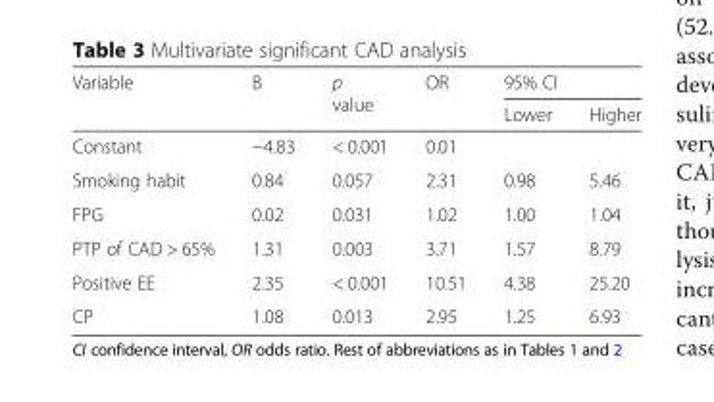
<table><thead><tr><td rowspan="2">Variable</td><td rowspan="2">B</td><td rowspan="2">p value</td><td rowspan="2">OR</td><td colspan="2">95% CI</td></tr><tr><td>Lower</td><td>Higher</td></tr></thead><tbody><tr><td>Constant</td><td>−4.83</td><td>&lt; 0.001</td><td>0.01</td><td></td><td></td></tr><tr><td>Smoking habit</td><td>0.84</td><td>0.057</td><td>2.31</td><td>0.98</td><td>5.46</td></tr><tr><td>FPG</td><td>0.02</td><td>0.031</td><td>1.02</td><td>1.00</td><td>1.04</td></tr><tr><td>PTP of CAD &gt; 65%</td><td>1.31</td><td>0.003</td><td>3.71</td><td>1.57</td><td>8.79</td></tr><tr><td>Positive EE</td><td>2.35</td><td>&lt; 0.001</td><td>10.51</td><td>4.38</td><td>25.20</td></tr><tr><td>CP</td><td>1.08</td><td>0.013</td><td>2.95</td><td>1.25</td><td>6.93</td></tr></tbody></table>